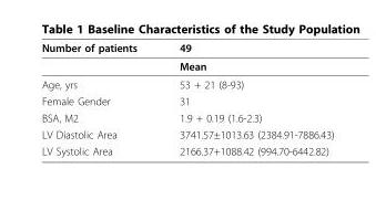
<table><thead><tr><td>Number of patients</td><td>49</td></tr></thead><tbody><tr><td></td><td>Mean</td></tr><tr><td>Age, yrs</td><td>53 + 21 (8-93)</td></tr><tr><td>Female Gender</td><td>31</td></tr><tr><td>BSA, M2</td><td>1.9 + 0.19 (1.6-2.3)</td></tr><tr><td>LV Diastolic Area</td><td>3741.57±1013.63 (2384.91-7886.43)</td></tr><tr><td>LV Systolic Area</td><td>2166.37+1088.42 (994.70-6442.82)</td></tr></tbody></table>